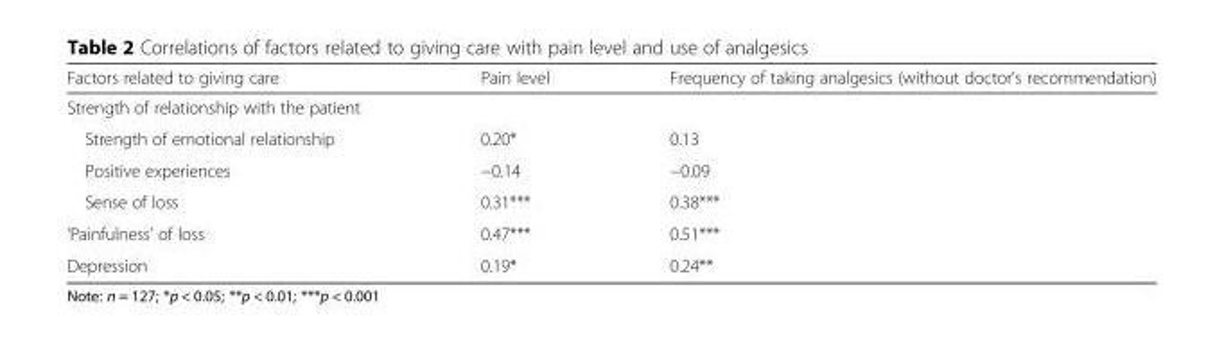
<table><thead><tr><td>Factors related to giving care</td><td>Pain level</td><td>Frequency of taking analgesics (without doctor’s recommendation)</td></tr></thead><tbody><tr><td colspan="3">Strength of relationship with the patient</td></tr><tr><td>Strength of emotional relationship</td><td>0.20*</td><td>0.13</td></tr><tr><td>Positive experiences</td><td>−0.14</td><td>−0.09</td></tr><tr><td>Sense of loss</td><td>0.31***</td><td>0.38***</td></tr><tr><td>‘Painfulness’ of loss</td><td>0.47***</td><td>0.51***</td></tr><tr><td>Depression</td><td>0.19*</td><td>0.24**</td></tr></tbody></table>